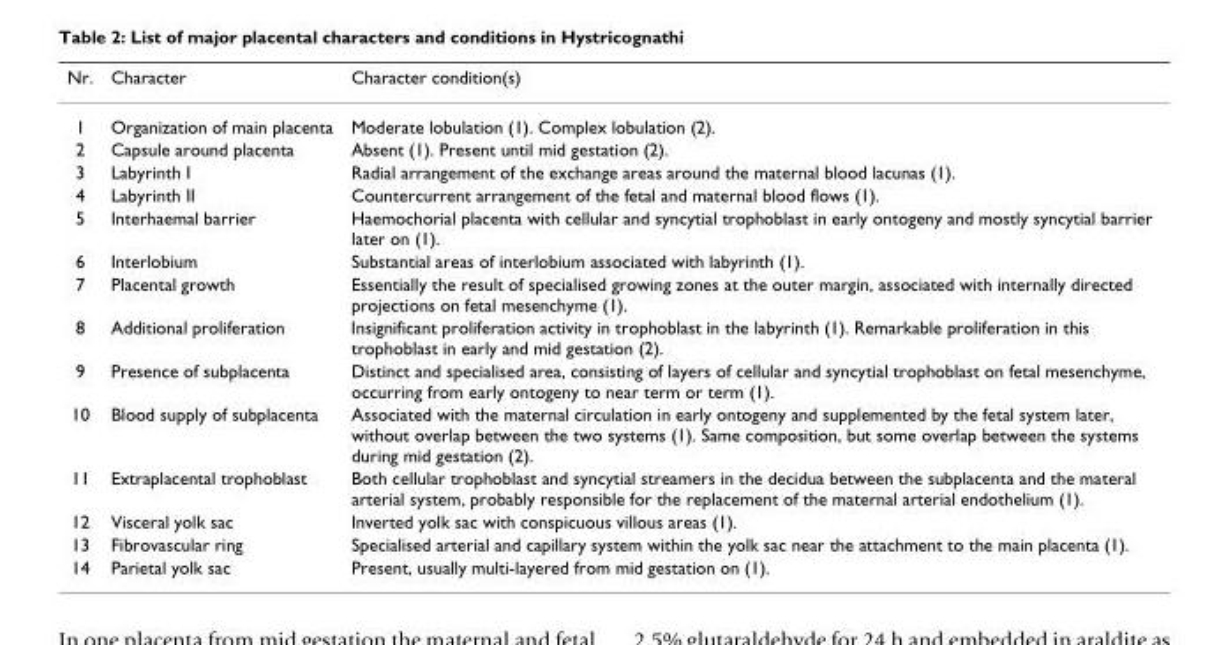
<table><thead><tr><td>Nr.</td><td>Character</td><td>Character condition(s)</td></tr></thead><tbody><tr><td>1</td><td>Organization of main placenta</td><td>Moderate lobulation (1). Complex lobulation (2).</td></tr><tr><td>2</td><td>Capsule around placenta</td><td>Absent (1). Present until mid gestation (2).</td></tr><tr><td>3</td><td>Labyrinth I</td><td>Radial arrangement of the exchange areas around the maternal blood lacunas (1).</td></tr><tr><td>4</td><td>Labyrinth II</td><td>Countercurrent arrangement of the fetal and maternal blood flows (1).</td></tr><tr><td>5</td><td>Interhaemal barrier</td><td>Haemochorial placenta with cellular and syncytial trophoblast in early ontogeny and mostly syncytial barrier later on (1).</td></tr><tr><td>6</td><td>Interlobium</td><td>Substantial areas of interlobium associated with labyrinth (1).</td></tr><tr><td>7</td><td>Placental growth</td><td>Essentially the result of specialised growing zones at the outer margin, associated with internally directed projections on fetal mesenchyme (1).</td></tr><tr><td>8</td><td>Additional proliferation</td><td>Insignificant proliferation activity in trophoblast in the labyrinth (1). Remarkable proliferation in this trophoblast in early and mid gestation (2).</td></tr><tr><td>9</td><td>Presence of subplacenta</td><td>Distinct and specialised area, consisting of layers of cellular and syncytial trophoblast on fetal mesenchyme, occurring from early ontogeny to near term or term (1).</td></tr><tr><td>10</td><td>Blood supply of subplacenta</td><td>Associated with the maternal circulation in early ontogeny and supplemented by the fetal system later, without overlap between the two systems (1). Same composition, but some overlap between the systems during mid gestation (2).</td></tr><tr><td>11</td><td>Extraplacental trophoblast</td><td>Both cellular trophoblast and syncytial streamers in the decidua between the subplacenta and the materal arterial system, probably responsible for the replacement of the maternal arterial endothelium (1).</td></tr><tr><td>12</td><td>Visceral yolk sac</td><td>Inverted yolk sac with conspicuous villous areas (1).</td></tr><tr><td>13</td><td>Fibrovascular ring</td><td>Specialised arterial and capillary system within the yolk sac near the attachment to the main placenta (1).</td></tr><tr><td>14</td><td>Parietal yolk sac</td><td>Present, usually multi-layered from mid gestation on (1).</td></tr></tbody></table>